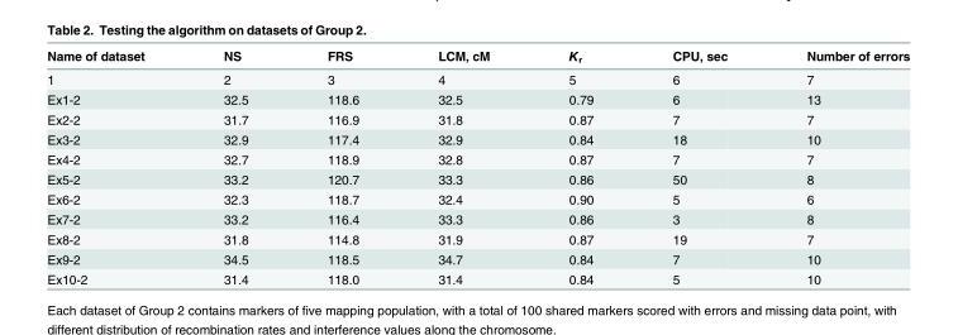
<table><thead><tr><td>Name of dataset</td><td>NS</td><td>FRS</td><td>LCM, cM</td><td>K<sub>r</sub></td><td>CPU, sec</td><td>Number of errors</td></tr></thead><tbody><tr><td>1</td><td>2</td><td>3</td><td>4</td><td>5</td><td>6</td><td>7</td></tr><tr><td>Ex1-2</td><td>32.5</td><td>118.6</td><td>32.5</td><td>0.79</td><td>6</td><td>13</td></tr><tr><td>Ex2-2</td><td>31.7</td><td>116.9</td><td>31.8</td><td>0.87</td><td>7</td><td>7</td></tr><tr><td>Ex3-2</td><td>32.9</td><td>117.4</td><td>32.9</td><td>0.84</td><td>18</td><td>10</td></tr><tr><td>Ex4-2</td><td>32.7</td><td>118.9</td><td>32.8</td><td>0.87</td><td>7</td><td>7</td></tr><tr><td>Ex5-2</td><td>33.2</td><td>120.7</td><td>33.3</td><td>0.86</td><td>50</td><td>8</td></tr><tr><td>Ex6-2</td><td>32.3</td><td>118.7</td><td>32.4</td><td>0.90</td><td>5</td><td>6</td></tr><tr><td>Ex7-2</td><td>33.2</td><td>116.4</td><td>33.3</td><td>0.86</td><td>3</td><td>8</td></tr><tr><td>Ex8-2</td><td>31.8</td><td>114.8</td><td>31.9</td><td>0.87</td><td>19</td><td>7</td></tr><tr><td>Ex9-2</td><td>34.5</td><td>118.5</td><td>34.7</td><td>0.84</td><td>7</td><td>10</td></tr><tr><td>Ex10-2</td><td>31.4</td><td>118.0</td><td>31.4</td><td>0.84</td><td>5</td><td>10</td></tr></tbody></table>